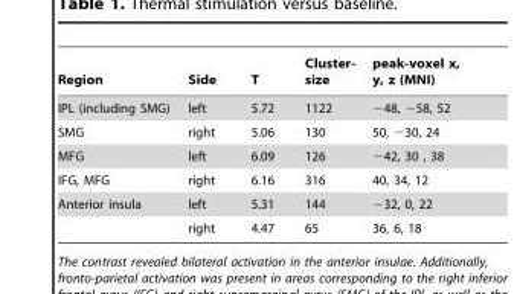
<table><thead><tr><td>Region</td><td>Side</td><td>T</td><td>Cluster- size</td><td>peak-voxel x, y, z (MNI)</td></tr></thead><tbody><tr><td>IPL (including SMG)</td><td>left</td><td>5.72</td><td>1122</td><td>−48, −58, 52</td></tr><tr><td>SMG</td><td>right</td><td>5.06</td><td>130</td><td>50, −30, 24</td></tr><tr><td>MFG</td><td>left</td><td>6.09</td><td>126</td><td>−42, 30 , 38</td></tr><tr><td>IFG, MFG</td><td>right</td><td>6.16</td><td>316</td><td>40, 34, 12</td></tr><tr><td rowspan="2">Anterior insula</td><td>left</td><td>5.31</td><td>144</td><td>−32, 0, 22</td></tr><tr><td>right</td><td>4.47</td><td>65</td><td>36, 6, 18</td></tr></tbody></table>